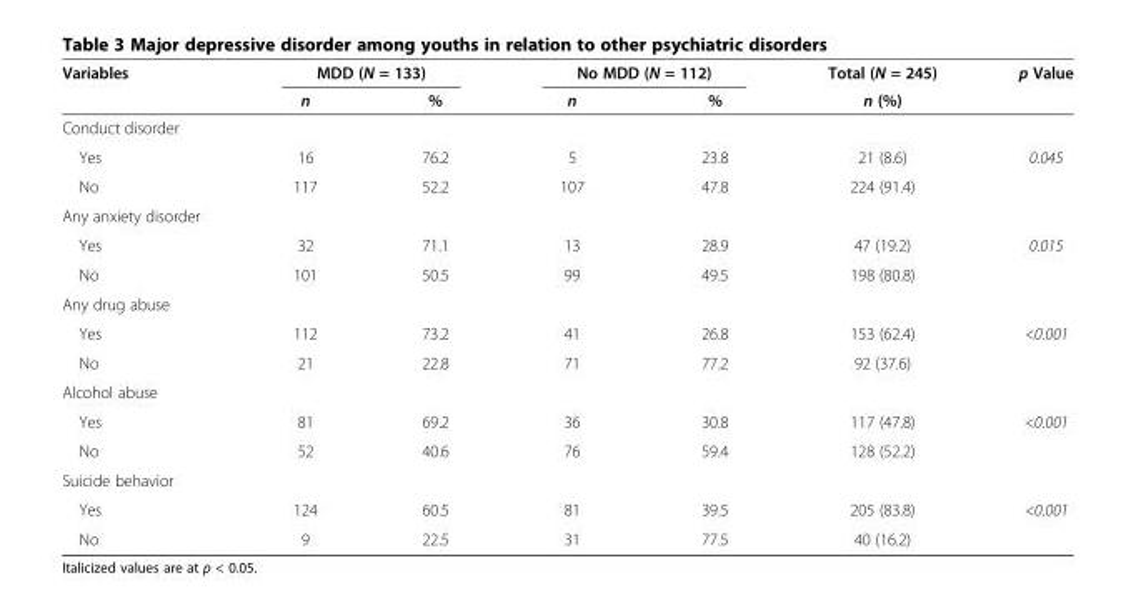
<table><thead><tr><td rowspan="2">Variables</td><td colspan="2">MDD (N = 133)</td><td colspan="2">No MDD (N = 112)</td><td rowspan="2">Total (N = 245) n (%)</td><td rowspan="2">p Value</td></tr><tr><td>n</td><td>%</td><td>n</td><td>%</td></tr></thead><tbody><tr><td colspan="7">Conduct disorder</td></tr><tr><td>Yes</td><td>16</td><td>76.2</td><td>5</td><td>23.8</td><td>21 (8.6)</td><td>0.045</td></tr><tr><td>No</td><td>117</td><td>52.2</td><td>107</td><td>47.8</td><td>224 (91.4)</td><td></td></tr><tr><td colspan="7">Any anxiety disorder</td></tr><tr><td>Yes</td><td>32</td><td>71.1</td><td>13</td><td>28.9</td><td>47 (19.2)</td><td>0.015</td></tr><tr><td>No</td><td>101</td><td>50.5</td><td>99</td><td>49.5</td><td>198 (80.8)</td><td></td></tr><tr><td colspan="7">Any drug abuse</td></tr><tr><td>Yes</td><td>112</td><td>73.2</td><td>41</td><td>26.8</td><td>153 (62.4)</td><td>&lt;0.001</td></tr><tr><td>No</td><td>21</td><td>22.8</td><td>71</td><td>77.2</td><td>92 (37.6)</td><td></td></tr><tr><td colspan="7">Alcohol abuse</td></tr><tr><td>Yes</td><td>81</td><td>69.2</td><td>36</td><td>30.8</td><td>117 (47.8)</td><td>&lt;0.001</td></tr><tr><td>No</td><td>52</td><td>40.6</td><td>76</td><td>59.4</td><td>128 (52.2)</td><td></td></tr><tr><td colspan="7">Suicide behavior</td></tr><tr><td>Yes</td><td>124</td><td>60.5</td><td>81</td><td>39.5</td><td>205 (83.8)</td><td>&lt;0.001</td></tr><tr><td>No</td><td>9</td><td>22.5</td><td>31</td><td>77.5</td><td>40 (16.2)</td><td></td></tr></tbody></table>